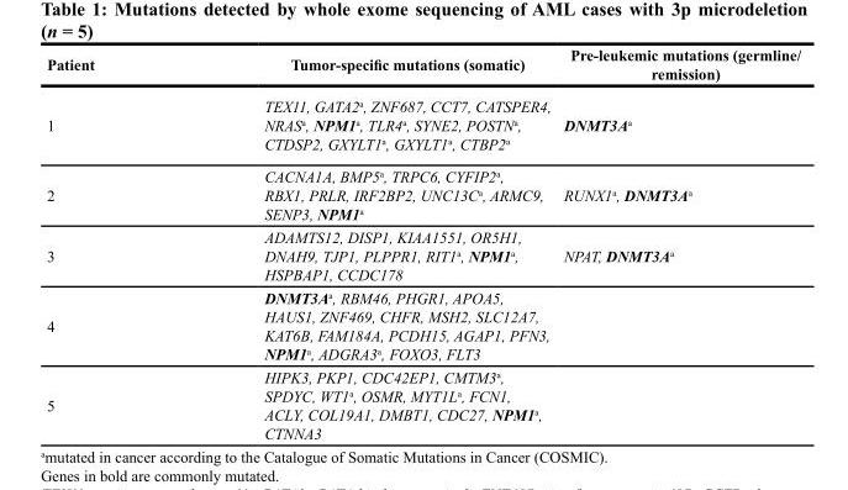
<table><thead><tr><td>Patient</td><td>Tumor-specific mutations (somatic)</td><td>Pre-leukemic mutations (germline/ remission)</td></tr></thead><tbody><tr><td>1</td><td>TEX11, GATA2<sup>a</sup>, ZNF687, CCT7, CATSPER4, NRAS<sup>a</sup>, NPM1<sup>a</sup>, TLR4<sup>a</sup>, SYNE2, POSTN<sup>a</sup>, CTDSP2, GXYLT1<sup>a</sup>, GXYLT1<sup>a</sup>, CTBP2<sup>a</sup></td><td>DNMT3A<sup>a</sup></td></tr><tr><td>2</td><td>CACNA1A, BMP5<sup>a</sup>, TRPC6, CYFIP2<sup>a</sup>, RBX1, PRLR, IRF2BP2, UNC13C<sup>a</sup>, ARMC9, SENP3, NPM1<sup>a</sup></td><td>RUNX1<sup>a</sup>, DNMT3A<sup>a</sup></td></tr><tr><td>3</td><td>ADAMTS12, DISP1, KIAA1551, OR5H1, DNAH9, TJP1, PLPPR1, RIT1<sup>a</sup>, NPM1<sup>a</sup>, HSPBAP1, CCDC178</td><td>NPAT, DNMT3A<sup>a</sup></td></tr><tr><td>4</td><td>DNMT3A<sup>a</sup>, RBM46, PHGR1, APOA5, HAUS1, ZNF469, CHFR, MSH2, SLC12A7, KAT6B, FAM184A, PCDH15, AGAP1, PFN3, NPM1<sup>a</sup>, ADGRA3<sup>a</sup>, FOXO3, FLT3</td><td></td></tr><tr><td>5</td><td>HIPK3, PKP1, CDC42EP1, CMTM3<sup>a</sup>, SPDYC, WT1<sup>a</sup>, OSMR, MYT1L<sup>a</sup>, FCN1, ACLY, COL19A1, DMBT1, CDC27, NPM1<sup>a</sup>, CTNNA3</td><td></td></tr></tbody></table>